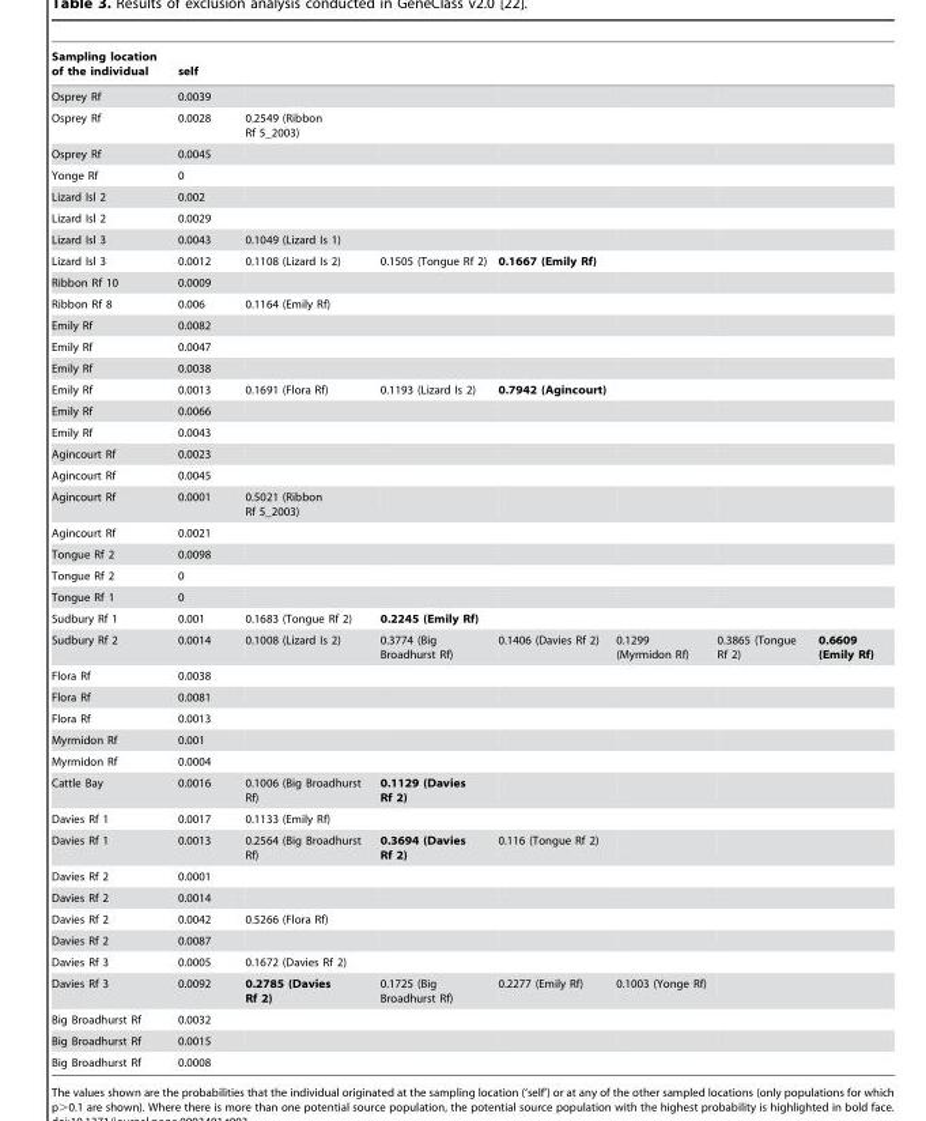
<table><thead><tr><td>Sampling location of the individual</td><td>self</td><td></td><td></td><td></td><td></td><td></td><td></td></tr></thead><tbody><tr><td>Osprey Rf</td><td>0.0039</td><td></td><td></td><td></td><td></td><td></td><td></td></tr><tr><td>Osprey Rf</td><td>0.0028</td><td>0.2549 (Ribbon Rf 5_2003)</td><td></td><td></td><td></td><td></td><td></td></tr><tr><td>Osprey Rf</td><td>0.0045</td><td></td><td></td><td></td><td></td><td></td><td></td></tr><tr><td>Yonge Rf</td><td>0</td><td></td><td></td><td></td><td></td><td></td><td></td></tr><tr><td>Lizard Isl 2</td><td>0.002</td><td></td><td></td><td></td><td></td><td></td><td></td></tr><tr><td>Lizard Isl 2</td><td>0.0029</td><td></td><td></td><td></td><td></td><td></td><td></td></tr><tr><td>Lizard Isl 3</td><td>0.0043</td><td>0.1049 (Lizard Is 1)</td><td></td><td></td><td></td><td></td><td></td></tr><tr><td>Lizard Isl 3</td><td>0.0012</td><td>0.1108 (Lizard Is 2)</td><td>0.1505 (Tongue Rf 2)</td><td>0.1667 (Emily Rf)</td><td></td><td></td><td></td></tr><tr><td>Ribbon Rf 10</td><td>0.0009</td><td></td><td></td><td></td><td></td><td></td><td></td></tr><tr><td>Ribbon Rf 8</td><td>0.006</td><td>0.1164 (Emily Rf)</td><td></td><td></td><td></td><td></td><td></td></tr><tr><td>Emily Rf</td><td>0.0082</td><td></td><td></td><td></td><td></td><td></td><td></td></tr><tr><td>Emily Rf</td><td>0.0047</td><td></td><td></td><td></td><td></td><td></td><td></td></tr><tr><td>Emily Rf</td><td>0.0038</td><td></td><td></td><td></td><td></td><td></td><td></td></tr><tr><td>Emily Rf</td><td>0.0013</td><td>0.1691 (Flora Rf)</td><td>0.1193 (Lizard Is 2)</td><td>0.7942 (Agincourt)</td><td></td><td></td><td></td></tr><tr><td>Emily Rf</td><td>0.0066</td><td></td><td></td><td></td><td></td><td></td><td></td></tr><tr><td>Emily Rf</td><td>0.0043</td><td></td><td></td><td></td><td></td><td></td><td></td></tr><tr><td>Agincourt Rf</td><td>0.0023</td><td></td><td></td><td></td><td></td><td></td><td></td></tr><tr><td>Agincourt Rf</td><td>0.0045</td><td></td><td></td><td></td><td></td><td></td><td></td></tr><tr><td>Agincourt Rf</td><td>0.0001</td><td>0.5021 (Ribbon Rf 5_2003)</td><td></td><td></td><td></td><td></td><td></td></tr><tr><td>Agincourt Rf</td><td>0.0021</td><td></td><td></td><td></td><td></td><td></td><td></td></tr><tr><td>Tongue Rf 2</td><td>0.0098</td><td></td><td></td><td></td><td></td><td></td><td></td></tr><tr><td>Tongue Rf 2</td><td>0</td><td></td><td></td><td></td><td></td><td></td><td></td></tr><tr><td>Tongue Rf 1</td><td>0</td><td></td><td></td><td></td><td></td><td></td><td></td></tr><tr><td>Sudbury Rf 1</td><td>0.001</td><td>0.1683 (Tongue Rf 2)</td><td>0.2245 (Emily Rf)</td><td></td><td></td><td></td><td></td></tr><tr><td>Sudbury Rf 2</td><td>0.0014</td><td>0.1008 (Lizard Is 2)</td><td>0.3774 (Big Broadhurst Rf)</td><td>0.1406 (Davies Rf 2)</td><td>0.1299 (Myrmidon Rf)</td><td>0.3865 (Tongue Rf 2)</td><td>0.6609 (Emily Rf)</td></tr><tr><td>Flora Rf</td><td>0.0038</td><td></td><td></td><td></td><td></td><td></td><td></td></tr><tr><td>Flora Rf</td><td>0.0081</td><td></td><td></td><td></td><td></td><td></td><td></td></tr><tr><td>Flora Rf</td><td>0.0013</td><td></td><td></td><td></td><td></td><td></td><td></td></tr><tr><td>Myrmidon Rf</td><td>0.001</td><td></td><td></td><td></td><td></td><td></td><td></td></tr><tr><td>Myrmidon Rf</td><td>0.0004</td><td></td><td></td><td></td><td></td><td></td><td></td></tr><tr><td>Cattle Bay</td><td>0.0016</td><td>0.1006 (Big Broadhurst Rf)</td><td>0.1129 (Davies Rf 2)</td><td></td><td></td><td></td><td></td></tr><tr><td>Davies Rf 1</td><td>0.0017</td><td>0.1133 (Emily Rf)</td><td></td><td></td><td></td><td></td><td></td></tr><tr><td>Davies Rf 1</td><td>0.0013</td><td>0.2564 (Big Broadhurst Rf)</td><td>0.3694 (Davies Rf 2)</td><td>0.116 (Tongue Rf 2)</td><td></td><td></td><td></td></tr><tr><td>Davies Rf 2</td><td>0.0001</td><td></td><td></td><td></td><td></td><td></td><td></td></tr><tr><td>Davies Rf 2</td><td>0.0014</td><td></td><td></td><td></td><td></td><td></td><td></td></tr><tr><td>Davies Rf 2</td><td>0.0042</td><td>0.5266 (Flora Rf)</td><td></td><td></td><td></td><td></td><td></td></tr><tr><td>Davies Rf 2</td><td>0.0087</td><td></td><td></td><td></td><td></td><td></td><td></td></tr><tr><td>Davies Rf 3</td><td>0.0005</td><td>0.1672 (Davies Rf 2)</td><td></td><td></td><td></td><td></td><td></td></tr><tr><td>Davies Rf 3</td><td>0.0092</td><td>0.2785 (Davies Rf 2)</td><td>0.1725 (Big Broadhurst Rf)</td><td>0.2277 (Emily Rf)</td><td>0.1003 (Yonge Rf)</td><td></td><td></td></tr><tr><td>Big Broadhurst Rf</td><td>0.0032</td><td></td><td></td><td></td><td></td><td></td><td></td></tr><tr><td>Big Broadhurst Rf</td><td>0.0015</td><td></td><td></td><td></td><td></td><td></td><td></td></tr><tr><td>Big Broadhurst Rf</td><td>0.0008</td><td></td><td></td><td></td><td></td><td></td><td></td></tr></tbody></table>